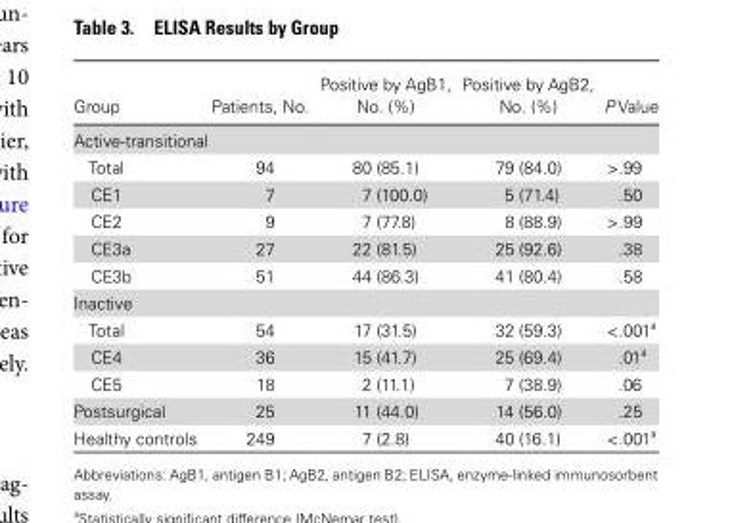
<table><thead><tr><td>Group</td><td>Patients, No.</td><td>Positive by AgB1, No. (%)</td><td>Positive by AgB2, No. (%)</td><td>P Value</td></tr></thead><tbody><tr><td colspan="5">Active-transitional</td></tr><tr><td>Total</td><td>94</td><td>80 (85.1)</td><td>79 (84.0)</td><td>&gt;.99</td></tr><tr><td>CE1</td><td>7</td><td>7 (100.0)</td><td>5 (71.4)</td><td>.50</td></tr><tr><td>CE2</td><td>9</td><td>7 (77.8)</td><td>8 (88.9)</td><td>&gt;.99</td></tr><tr><td>CE3a</td><td>27</td><td>22 (81.5)</td><td>25 (92.6)</td><td>.38</td></tr><tr><td>CE3b</td><td>51</td><td>44 (86.3)</td><td>41 (80.4)</td><td>.58</td></tr><tr><td colspan="5">Inactive</td></tr><tr><td>Total</td><td>54</td><td>17 (31.5)</td><td>32 (59.3)</td><td>&lt;.001<sup>a</sup></td></tr><tr><td>CE4</td><td>36</td><td>15 (41.7)</td><td>25 (69.4)</td><td>.01<sup>a</sup></td></tr><tr><td>CE5</td><td>18</td><td>2 (11.1)</td><td>7 (38.9)</td><td>.06</td></tr><tr><td>Postsurgical</td><td>25</td><td>11 (44.0)</td><td>14 (56.0)</td><td>.25</td></tr><tr><td>Healthy controls</td><td>249</td><td>7 (2.8)</td><td>40 (16.1)</td><td>&lt;.001<sup>a</sup></td></tr></tbody></table>